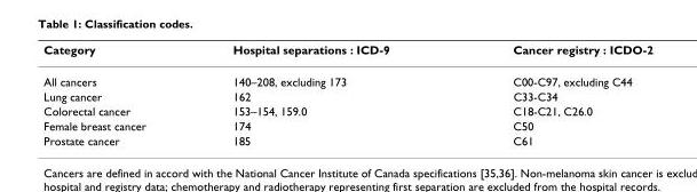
<table><thead><tr><td>Category</td><td>Hospital separations : ICD-9</td><td>Cancer registry : ICDO-2</td></tr></thead><tbody><tr><td>All cancers</td><td>140–208, excluding 173</td><td>C00-C97, excluding C44</td></tr><tr><td>Lung cancer</td><td>162</td><td>C33-C34</td></tr><tr><td>Colorectal cancer</td><td>153–154, 159.0</td><td>C18-C21, C26.0</td></tr><tr><td>Female breast cancer</td><td>174</td><td>C50</td></tr><tr><td>Prostate cancer</td><td>185</td><td>C61</td></tr></tbody></table>